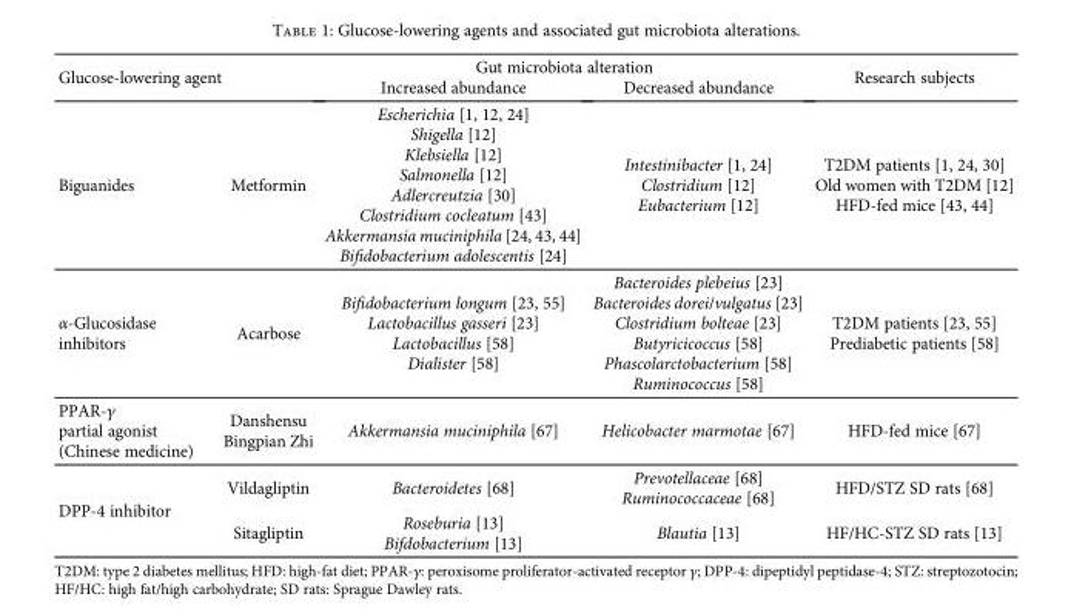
<table><thead><tr><td rowspan="2" colspan="2">Glucose-lowering agent</td><td colspan="2">Gut microbiota alteration</td><td rowspan="3">Research subjects T2DM patients [1, 24, 30] Old women with T2DM [12] HFD-fed mice [43, 44]</td></tr><tr><td rowspan="2">Increased abundance Escherichia [1, 12, 24] Shigella [12] Klebsiella [12] Salmonella [12] Adlercreutzia [30] Clostridium cocleatum [43] Akkermansia muciniphila [24, 43, 44] Bifidobacterium adolescentis [24]</td><td rowspan="2">Decreased abundance Intestinibacter [1, 24] Clostridium [12] Eubacterium [12]</td></tr><tr><td>Biguanides</td><td>Metformin</td></tr></thead><tbody><tr><td>α-Glucosidase inhibitors</td><td>Acarbose</td><td>Bifidobacterium longum [23, 55] Lactobacillus gasseri [23] Lactobacillus [58] Dialister [58]</td><td>Bacteroides plebeius [23] Bacteroides dorei/vulgatus [23] Clostridium bolteae [23] Butyricicoccus [58] Phascolarctobacterium [58] Ruminococcus [58]</td><td>T2DM patients [23, 55] Prediabetic patients [58]</td></tr><tr><td>PPAR-γ partial agonist (Chinese medicine)</td><td>Danshensu Bingpian Zhi</td><td>Akkermansia muciniphila [67]</td><td>Helicobacter marmotae [67]</td><td>HFD-fed mice [67]</td></tr><tr><td rowspan="2">DPP-4 inhibitor</td><td>Vildagliptin</td><td>Bacteroidetes [68]</td><td>Prevotellaceae [68] Ruminococcaceae [68]</td><td>HFD/STZ SD rats [68]</td></tr><tr><td>Sitagliptin</td><td>Roseburia [13] Bifdobacterium [13]</td><td>Blautia [13]</td><td>HF/HC-STZ SD rats [13]</td></tr></tbody></table>